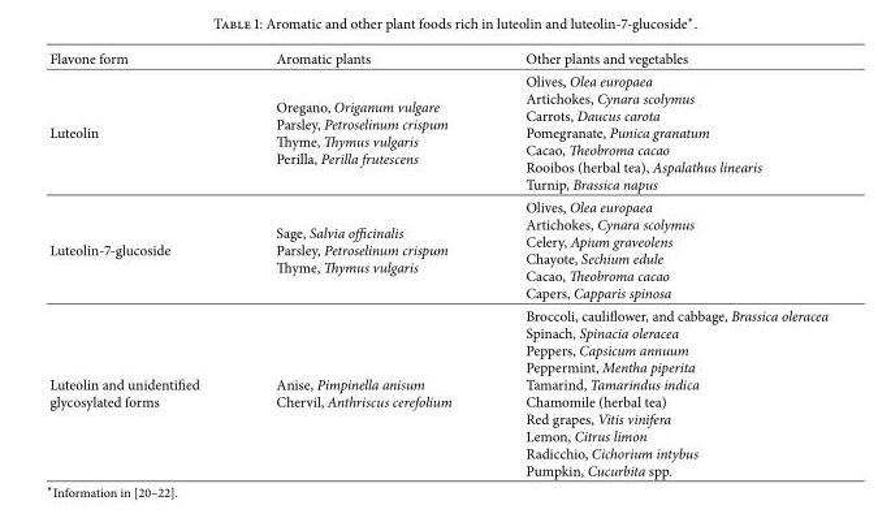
<table><thead><tr><td>Flavone form</td><td>Aromatic plants</td><td>Other plants and vegetables</td></tr></thead><tbody><tr><td>Luteolin</td><td>Oregano, Origanum vulgare Parsley, Petroselinum crispum Thyme, Thymus vulgaris Perilla, Perilla frutescens</td><td>Olives, Olea europaea Artichokes, Cynara scolymus Carrots, Daucus carota Pomegranate, Punica granatum Cacao, Theobroma cacao Rooibos (herbal tea), Aspalathus linearis Turnip, Brassica napus</td></tr><tr><td>Luteolin-7-glucoside</td><td>Sage, Salvia officinalis Parsley, Petroselinum crispum Thyme, Thymus vulgaris</td><td>Olives, Olea europaea Artichokes, Cynara scolymus Celery, Apium graveolens Chayote, Sechium edule Cacao, Theobroma cacao Capers, Capparis spinosa</td></tr><tr><td>Luteolin and unidentified glycosylated forms</td><td>Anise, Pimpinella anisum Chervil, Anthriscus cerefolium</td><td>Broccoli, cauliflower, and cabbage, Brassica oleracea Spinach, Spinacia oleracea Peppers, Capsicum annuum Peppermint, Mentha piperita Tamarind, Tamarindus indica Chamomile (herbal tea) Red grapes, Vitis vinifera Lemon, Citrus limon Radicchio, Cichorium intybus Pumpkin, Cucurbita spp.</td></tr></tbody></table>